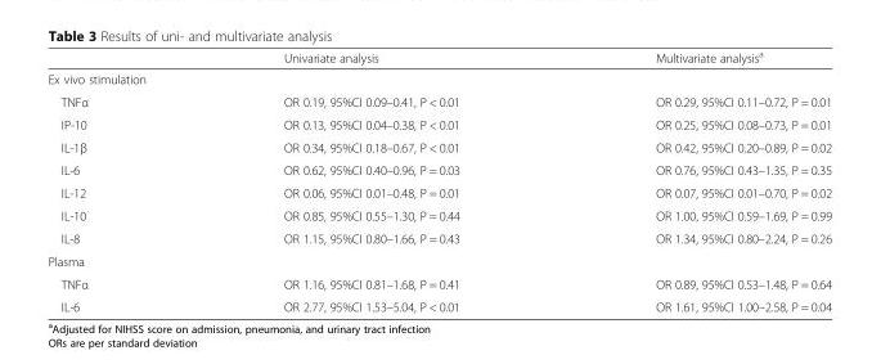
<table><thead><tr><td></td><td>Univariate analysis</td><td>Multivariate analysis<sup>a</sup></td></tr></thead><tbody><tr><td colspan="3">Ex vivo stimulation</td></tr><tr><td>TNFα</td><td>OR 0.19, 95%CI 0.09–0.41, P &lt; 0.01</td><td>OR 0.29, 95%CI 0.11–0.72, P = 0.01</td></tr><tr><td>IP-10</td><td>OR 0.13, 95%CI 0.04–0.38, P &lt; 0.01</td><td>OR 0.25, 95%CI 0.08–0.73, P = 0.01</td></tr><tr><td>IL-1β</td><td>OR 0.34, 95%CI 0.18–0.67, P &lt; 0.01</td><td>OR 0.42, 95%CI 0.20–0.89, P = 0.02</td></tr><tr><td>IL-6</td><td>OR 0.62, 95%CI 0.40–0.96, P = 0.03</td><td>OR 0.76, 95%CI 0.43–1.35, P = 0.35</td></tr><tr><td>IL-12</td><td>OR 0.06, 95%CI 0.01–0.48, P = 0.01</td><td>OR 0.07, 95%CI 0.01–0.70, P = 0.02</td></tr><tr><td>IL-10</td><td>OR 0.85, 95%CI 0.55–1.30, P = 0.44</td><td>OR 1.00, 95%CI 0.59–1.69, P = 0.99</td></tr><tr><td>IL-8</td><td>OR 1.15, 95%CI 0.80–1.66, P = 0.43</td><td>OR 1.34, 95%CI 0.80–2.24, P = 0.26</td></tr><tr><td colspan="3">Plasma</td></tr><tr><td>TNFα</td><td>OR 1.16, 95%CI 0.81–1.68, P = 0.41</td><td>OR 0.89, 95%CI 0.53–1.48, P = 0.64</td></tr><tr><td>IL-6</td><td>OR 2.77, 95%CI 1.53–5.04, P &lt; 0.01</td><td>OR 1.61, 95%CI 1.00–2.58, P = 0.04</td></tr></tbody></table>